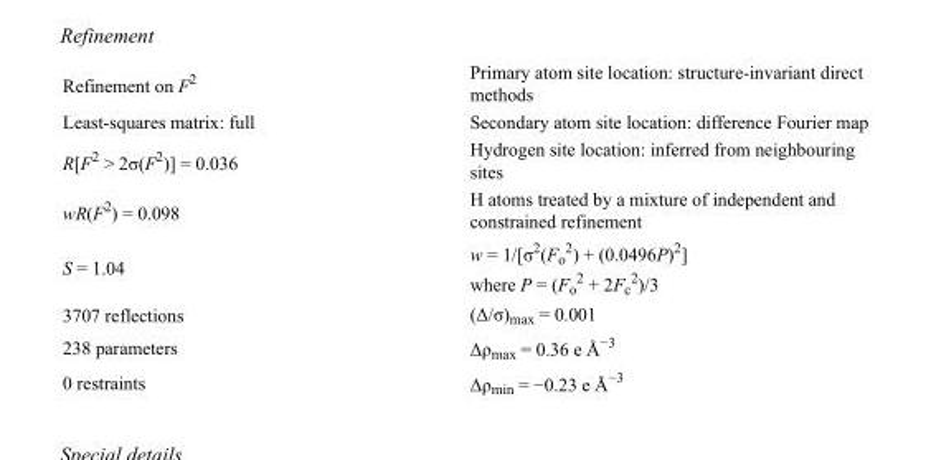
<table><tbody><tr><td>Refinement on F<sup>2</sup></td><td>Primary atom site location: structure-invariant direct methods</td></tr><tr><td>Least-squares matrix: full</td><td>Secondary atom site location: difference Fourier map</td></tr><tr><td>R[F<sup>2</sup> &gt; 2σ(F<sup>2</sup>)] = 0.036</td><td>Hydrogen site location: inferred from neighbouring sites</td></tr><tr><td>wR(F<sup>2</sup>) = 0.098</td><td>H atoms treated by a mixture of independent and constrained refinement</td></tr><tr><td>S = 1.04</td><td>w = 1/[σ<sup>2</sup>(F<sub>o</sub> <sup>2</sup>) + (0.0496P)<sup>2</sup>] where P = (F<sub>o</sub> <sup>2</sup> + 2F<sub>c</sub> <sup>2</sup>)/3</td></tr><tr><td>3707 reflections</td><td>(Δ/σ)<sub>max</sub> = 0.001</td></tr><tr><td>238 parameters</td><td>Δρ<sub>max</sub> = 0.36 e Å<sup>−3</sup></td></tr><tr><td>0 restraints</td><td>Δρ<sub>min</sub> = −0.23 e Å<sup>−3</sup></td></tr></tbody></table>